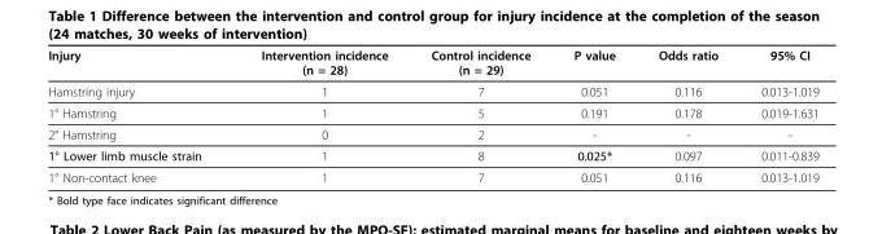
<table><thead><tr><td>Injury</td><td>Intervention incidence (n = 28)</td><td>Control incidence (n = 29)</td><td>P value</td><td>Odds ratio</td><td>95% CI</td></tr></thead><tbody><tr><td>Hamstring injury</td><td>1</td><td>7</td><td>0.051</td><td>0.116</td><td>0.013-1.019</td></tr><tr><td>1° Hamstring</td><td>1</td><td>5</td><td>0.191</td><td>0.178</td><td>0.019-1.631</td></tr><tr><td>2° Hamstring</td><td>0</td><td>2</td><td>-</td><td>-</td><td>-</td></tr><tr><td>1° Lower limb muscle strain</td><td>1</td><td>8</td><td>0.025*</td><td>0.097</td><td>0.011-0.839</td></tr><tr><td>1° Non-contact knee</td><td>1</td><td>7</td><td>0.051</td><td>0.116</td><td>0.013-1.019</td></tr></tbody></table>